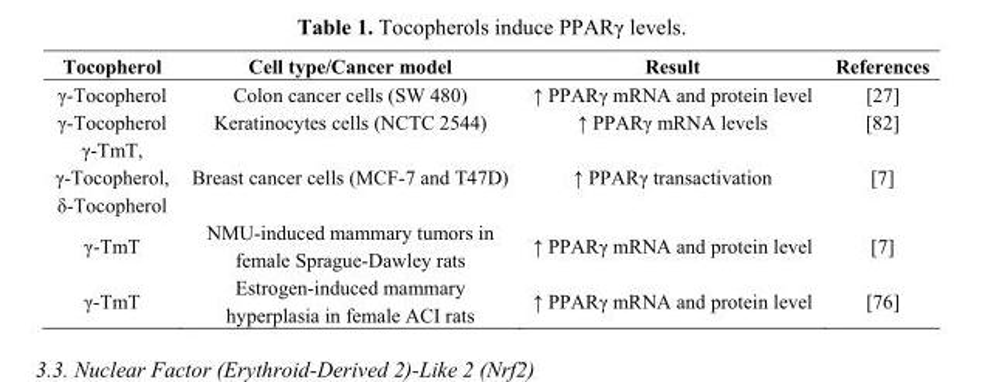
<table><thead><tr><td>Tocopherol</td><td>Cell type/Cancer model</td><td>Result</td><td>References</td></tr></thead><tbody><tr><td>γ-Tocopherol</td><td>Colon cancer cells (SW 480)</td><td>↑ PPARγ mRNA and protein level</td><td>[27]</td></tr><tr><td>γ-Tocopherol</td><td>Keratinocytes cells (NCTC 2544)</td><td>↑ PPARγ mRNA levels</td><td>[82]</td></tr><tr><td>γ-TmT, γ-Tocopherol, δ-Tocopherol</td><td>Breast cancer cells (MCF-7 and T47D)</td><td>↑ PPARγ transactivation</td><td>[7]</td></tr><tr><td>γ-TmT</td><td>NMU-induced mammary tumors in female Sprague-Dawley rats</td><td>↑ PPARγ mRNA and protein level</td><td>[7]</td></tr><tr><td>γ-TmT</td><td>Estrogen-induced mammary hyperplasia in female ACI rats</td><td>↑ PPARγ mRNA and protein level</td><td>[76]</td></tr></tbody></table>